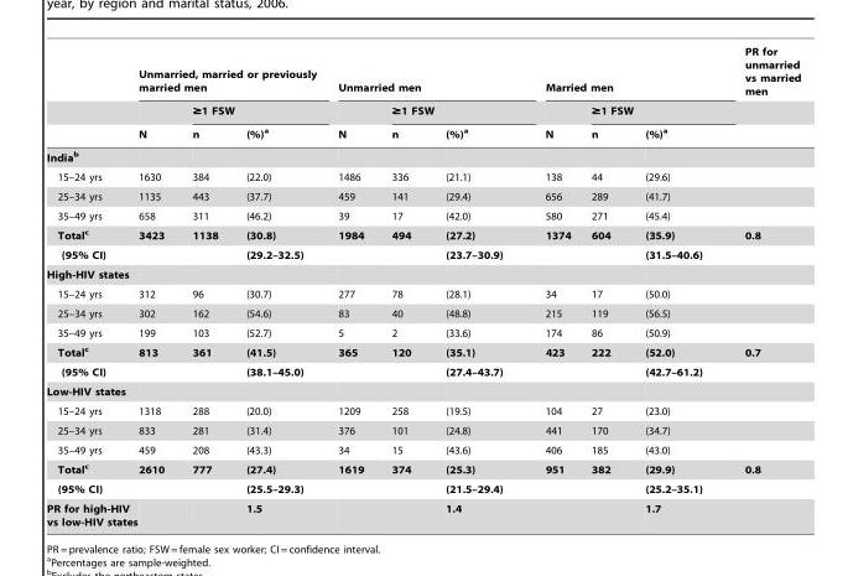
<table><thead><tr><td rowspan="3"></td><td colspan="3">Unmarried, married or previously married men</td><td colspan="3">Unmarried men</td><td colspan="3">Married men</td><td rowspan="3">PR for unmarried vs married men</td></tr><tr><td rowspan="2">N</td><td colspan="2">≥1 FSW</td><td rowspan="2">N</td><td colspan="2">≥1 FSW</td><td rowspan="2">N</td><td colspan="2">≥1 FSW</td></tr><tr><td>n</td><td>(%)<sup>a</sup></td><td>n</td><td>(%)<sup>a</sup></td><td>n</td><td>(%)<sup>a</sup></td></tr></thead><tbody><tr><td colspan="11">Indiab</td></tr><tr><td>15–24 yrs</td><td>1630</td><td>384</td><td>(22.0)</td><td>1486</td><td>336</td><td>(21.1)</td><td>138</td><td>44</td><td>(29.6)</td><td></td></tr><tr><td>25–34 yrs</td><td>1135</td><td>443</td><td>(37.7)</td><td>459</td><td>141</td><td>(29.4)</td><td>656</td><td>289</td><td>(41.7)</td><td></td></tr><tr><td>35–49 yrs</td><td>658</td><td>311</td><td>(46.2)</td><td>39</td><td>17</td><td>(42.0)</td><td>580</td><td>271</td><td>(45.4)</td><td></td></tr><tr><td>Totalc</td><td>3423</td><td>1138</td><td>(30.8)</td><td>1984</td><td>494</td><td>(27.2)</td><td>1374</td><td>604</td><td>(35.9)</td><td>0.8</td></tr><tr><td>(95% CI)</td><td></td><td></td><td>(29.2–32.5)</td><td></td><td></td><td>(23.7–30.9)</td><td></td><td></td><td>(31.5–40.6)</td><td></td></tr><tr><td colspan="11">High-HIV states</td></tr><tr><td>15–24 yrs</td><td>312</td><td>96</td><td>(30.7)</td><td>277</td><td>78</td><td>(28.1)</td><td>34</td><td>17</td><td>(50.0)</td><td></td></tr><tr><td>25–34 yrs</td><td>302</td><td>162</td><td>(54.6)</td><td>83</td><td>40</td><td>(48.8)</td><td>215</td><td>119</td><td>(56.5)</td><td></td></tr><tr><td>35–49 yrs</td><td>199</td><td>103</td><td>(52.7)</td><td>5</td><td>2</td><td>(33.6)</td><td>174</td><td>86</td><td>(50.9)</td><td></td></tr><tr><td>Totalc</td><td>813</td><td>361</td><td>(41.5)</td><td>365</td><td>120</td><td>(35.1)</td><td>423</td><td>222</td><td>(52.0)</td><td>0.7</td></tr><tr><td>(95% CI)</td><td></td><td></td><td>(38.1–45.0)</td><td></td><td></td><td>(27.4–43.7)</td><td></td><td></td><td>(42.7–61.2)</td><td></td></tr><tr><td colspan="11">Low-HIV states</td></tr><tr><td>15–24 yrs</td><td>1318</td><td>288</td><td>(20.0)</td><td>1209</td><td>258</td><td>(19.5)</td><td>104</td><td>27</td><td>(23.0)</td><td></td></tr><tr><td>25–34 yrs</td><td>833</td><td>281</td><td>(31.4)</td><td>376</td><td>101</td><td>(24.8)</td><td>441</td><td>170</td><td>(34.7)</td><td></td></tr><tr><td>35–49 yrs</td><td>459</td><td>208</td><td>(43.3)</td><td>34</td><td>15</td><td>(43.6)</td><td>406</td><td>185</td><td>(43.0)</td><td></td></tr><tr><td>Totalc</td><td>2610</td><td>777</td><td>(27.4)</td><td>1619</td><td>374</td><td>(25.3)</td><td>951</td><td>382</td><td>(29.9)</td><td>0.8</td></tr><tr><td>(95% CI)</td><td></td><td></td><td>(25.5–29.3)</td><td></td><td></td><td>(21.5–29.4)</td><td></td><td></td><td>(25.2–35.1)</td><td></td></tr><tr><td>PR for high-HIV vs low-HIV states</td><td></td><td></td><td>1.5</td><td></td><td></td><td>1.4</td><td></td><td></td><td>1.7</td><td></td></tr></tbody></table>